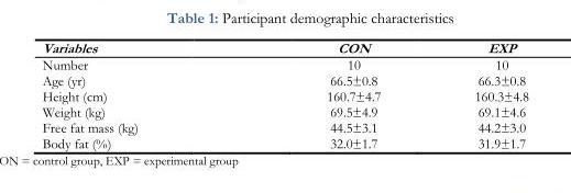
<table><thead><tr><td>Variables</td><td>CON</td><td>EXP</td></tr></thead><tbody><tr><td>Number</td><td>10</td><td>10</td></tr><tr><td>Age (yr)</td><td>66.5±0.8</td><td>66.3±0.8</td></tr><tr><td>Height (cm)</td><td>160.7±4.7</td><td>160.3±4.8</td></tr><tr><td>Weight (kg)</td><td>69.5±4.9</td><td>69.1±4.6</td></tr><tr><td>Free fat mass (kg)</td><td>44.5±3.1</td><td>44.2±3.0</td></tr><tr><td>Body fat (%)</td><td>32.0±1.7</td><td>31.9±1.7</td></tr></tbody></table>